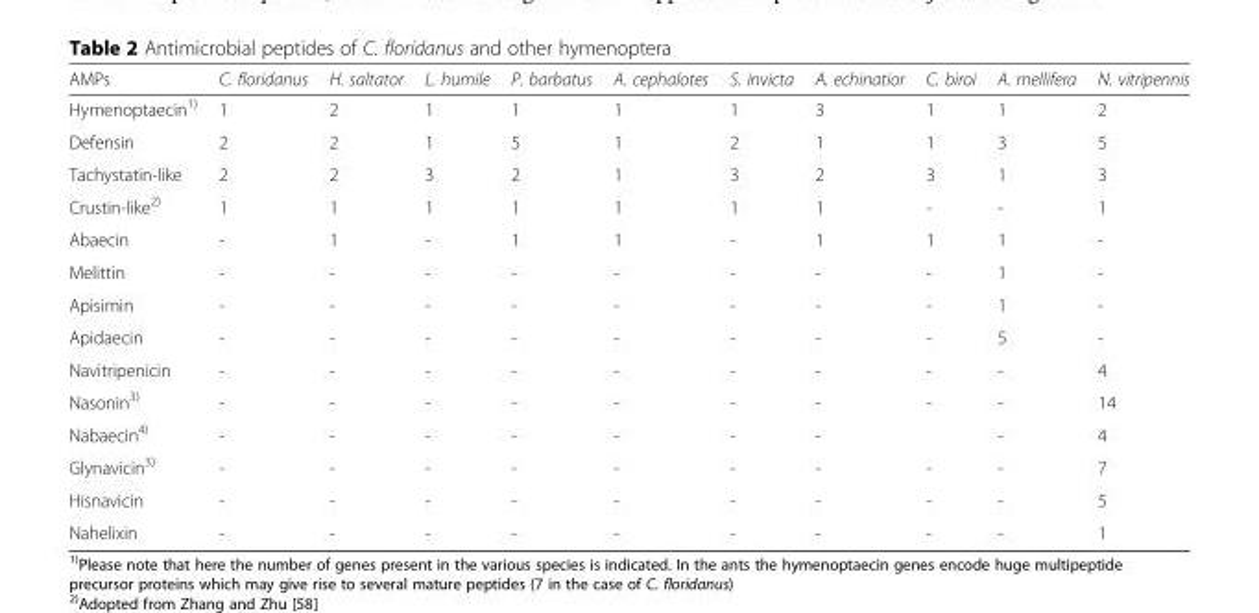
<table><thead><tr><td>AMPs</td><td>C. floridanus</td><td>H. saltator</td><td>L. humile</td><td>P. barbatus</td><td>A. cephalotes</td><td>S. invicta</td><td>A. echinatior</td><td>C. biroi</td><td>A. mellifera</td><td>N. vitripennis</td></tr></thead><tbody><tr><td>Hymenoptaecin<sup>1)</sup></td><td>1</td><td>2</td><td>1</td><td>1</td><td>1</td><td>1</td><td>3</td><td>1</td><td>1</td><td>2</td></tr><tr><td>Defensin</td><td>2</td><td>2</td><td>1</td><td>5</td><td>1</td><td>2</td><td>1</td><td>1</td><td>3</td><td>5</td></tr><tr><td>Tachystatin-like</td><td>2</td><td>2</td><td>3</td><td>2</td><td>1</td><td>3</td><td>2</td><td>3</td><td>1</td><td>3</td></tr><tr><td>Crustin-like<sup>2)</sup></td><td>1</td><td>1</td><td>1</td><td>1</td><td>1</td><td>1</td><td>1</td><td>-</td><td>-</td><td>1</td></tr><tr><td>Abaecin</td><td>-</td><td>1</td><td>-</td><td>1</td><td>1</td><td>-</td><td>1</td><td>1</td><td>1</td><td>-</td></tr><tr><td>Melittin</td><td>-</td><td>-</td><td>-</td><td>-</td><td>-</td><td>-</td><td>-</td><td>-</td><td>1</td><td>-</td></tr><tr><td>Apisimin</td><td>-</td><td>-</td><td>-</td><td>-</td><td>-</td><td>-</td><td>-</td><td>-</td><td>1</td><td>-</td></tr><tr><td>Apidaecin</td><td>-</td><td>-</td><td>-</td><td>-</td><td>-</td><td>-</td><td>-</td><td>-</td><td>5</td><td>-</td></tr><tr><td>Navitripenicin</td><td>-</td><td>-</td><td>-</td><td>-</td><td>-</td><td>-</td><td>-</td><td>-</td><td>-</td><td>4</td></tr><tr><td>Nasonin<sup>3)</sup></td><td>-</td><td>-</td><td>-</td><td>-</td><td>-</td><td>-</td><td>-</td><td>-</td><td>-</td><td>14</td></tr><tr><td>Nabaecin<sup>4)</sup></td><td>-</td><td>-</td><td>-</td><td>-</td><td>-</td><td>-</td><td>-</td><td></td><td>-</td><td>4</td></tr><tr><td>Glynavicin<sup>3)</sup></td><td>-</td><td>-</td><td>-</td><td>-</td><td>-</td><td>-</td><td>-</td><td>-</td><td>-</td><td>7</td></tr><tr><td>Hisnavicin</td><td>-</td><td>-</td><td>-</td><td>-</td><td>-</td><td>-</td><td>-</td><td>-</td><td>-</td><td>5</td></tr><tr><td>Nahelixin</td><td>-</td><td>-</td><td>-</td><td>-</td><td>-</td><td>-</td><td>-</td><td>-</td><td>-</td><td>1</td></tr></tbody></table>